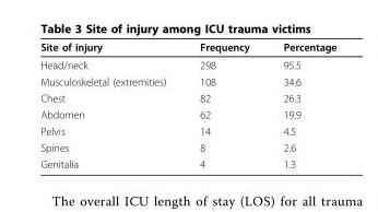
<table><thead><tr><td>Site of injury</td><td>Frequency</td><td>Percentage</td></tr></thead><tbody><tr><td>Head/neck</td><td>298</td><td>95.5</td></tr><tr><td>Musculoskeletal (extremities)</td><td>108</td><td>34.6</td></tr><tr><td>Chest</td><td>82</td><td>26.3</td></tr><tr><td>Abdomen</td><td>62</td><td>19.9</td></tr><tr><td>Pelvis</td><td>14</td><td>4.5</td></tr><tr><td>Spines</td><td>8</td><td>2.6</td></tr><tr><td>Genitalia</td><td>4</td><td>1.3</td></tr></tbody></table>